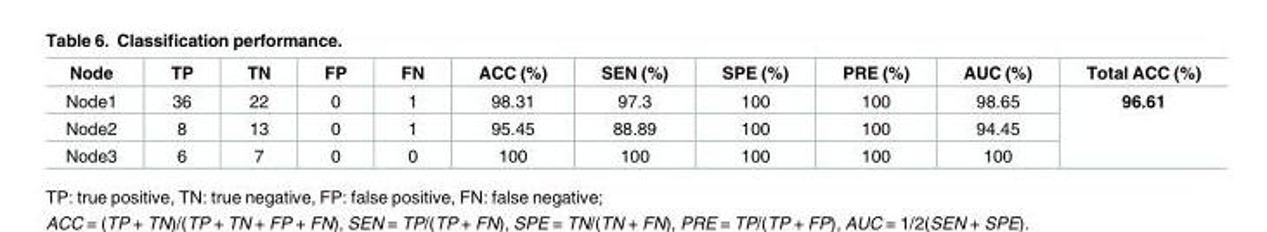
<table><thead><tr><td>Node</td><td>TP</td><td>TN</td><td>FP</td><td>FN</td><td>ACC (%)</td><td>SEN (%)</td><td>SPE (%)</td><td>PRE (%)</td><td>AUC (%)</td><td>Total ACC (%)</td></tr></thead><tbody><tr><td>Node1</td><td>36</td><td>22</td><td>0</td><td>1</td><td>98.31</td><td>97.3</td><td>100</td><td>100</td><td>98.65</td><td rowspan="3">96.61</td></tr><tr><td>Node2</td><td>8</td><td>13</td><td>0</td><td>1</td><td>95.45</td><td>88.89</td><td>100</td><td>100</td><td>94.45</td></tr><tr><td>Node3</td><td>6</td><td>7</td><td>0</td><td>0</td><td>100</td><td>100</td><td>100</td><td>100</td><td>100</td></tr></tbody></table>